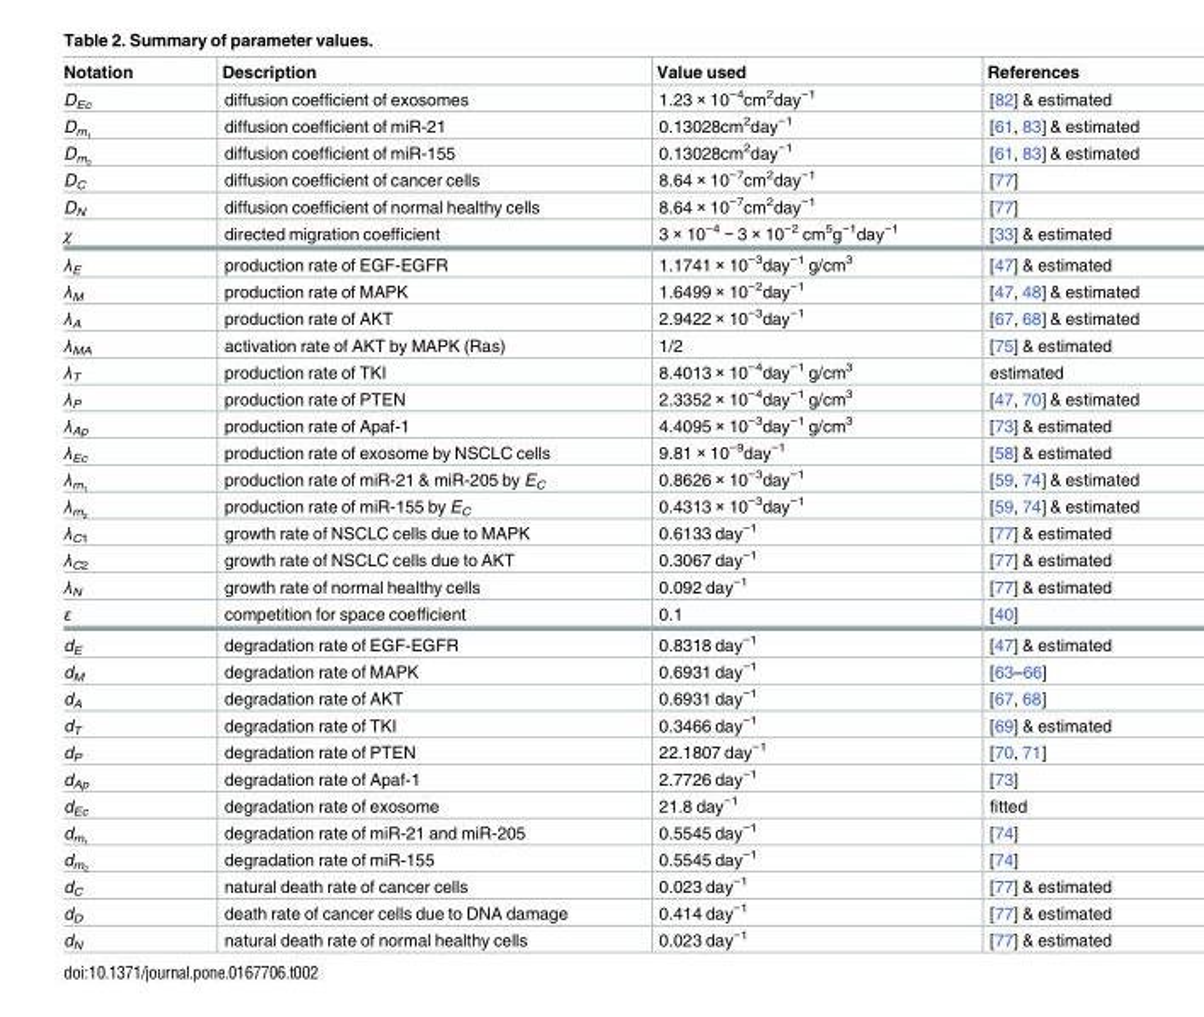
<table><thead><tr><td>Notation</td><td>Description</td><td>Value used</td><td>References</td></tr></thead><tbody><tr><td>D<sub>Ec</sub></td><td>diffusion coefficient of exosomes</td><td>1.23 × 10<sup>−4</sup>cm<sup>2</sup>day<sup>−1</sup></td><td>[82] &amp; estimated</td></tr><tr><td>Dm1</td><td>diffusion coefficient of miR-21</td><td>0.13028cm<sup>2</sup>day<sup>−1</sup></td><td>[61, 83] &amp; estimated</td></tr><tr><td>Dm2</td><td>diffusion coefficient of miR-155</td><td>0.13028cm<sup>2</sup>day<sup>−1</sup></td><td>[61, 83] &amp; estimated</td></tr><tr><td>D<sub>C</sub></td><td>diffusion coefficient of cancer cells</td><td>8.64 × 10<sup>−7</sup>cm<sup>2</sup>day<sup>−1</sup></td><td>[77]</td></tr><tr><td>D<sub>N</sub></td><td>diffusion coefficient of normal healthy cells</td><td>8.64 × 10<sup>−7</sup>cm<sup>2</sup>day<sup>−1</sup></td><td>[77]</td></tr><tr><td>χ</td><td>directed migration coefficient</td><td>3 × 10<sup>−4</sup> − 3 × 10<sup>−2</sup> cm<sup>5</sup>g<sup>−1</sup>day<sup>−1</sup></td><td>[33] &amp; estimated</td></tr><tr><td>λ<sub>E</sub></td><td>production rate of EGF-EGFR</td><td>1.1741 × 10<sup>−3</sup>day<sup>−1</sup> g/cm<sup>3</sup></td><td>[47] &amp; estimated</td></tr><tr><td>λ<sub>M</sub></td><td>production rate of MAPK</td><td>1.6499 × 10<sup>−2</sup>day<sup>−1</sup></td><td>[47, 48] &amp; estimated</td></tr><tr><td>λ<sub>A</sub></td><td>production rate of AKT</td><td>2.9422 × 10<sup>−3</sup>day<sup>−1</sup></td><td>[67, 68] &amp; estimated</td></tr><tr><td>λ<sub>MA</sub></td><td>activation rate of AKT by MAPK (Ras)</td><td>1/2</td><td>[75] &amp; estimated</td></tr><tr><td>λ<sub>T</sub></td><td>production rate of TKI</td><td>8.4013 × 10<sup>−4</sup>day<sup>−1</sup> g/cm<sup>3</sup></td><td>estimated</td></tr><tr><td>λ<sub>P</sub></td><td>production rate of PTEN</td><td>2.3352 × 10<sup>−4</sup>day<sup>−1</sup> g/cm<sup>3</sup></td><td>[47, 70] &amp; estimated</td></tr><tr><td>λ<sub>Ap</sub></td><td>production rate of Apaf-1</td><td>4.4095 × 10<sup>−3</sup>day<sup>−1</sup> g/cm<sup>3</sup></td><td>[73] &amp; estimated</td></tr><tr><td>λ<sub>Ec</sub></td><td>production rate of exosome by NSCLC cells</td><td>9.81 × 10<sup>−9</sup>day<sup>−1</sup></td><td>[58] &amp; estimated</td></tr><tr><td>λm1</td><td>production rate of miR-21 &amp; miR-205 by E<sub>C</sub></td><td>0.8626 × 10<sup>−3</sup>day<sup>−1</sup></td><td>[59, 74] &amp; estimated</td></tr><tr><td>λm2</td><td>production rate of miR-155 by E<sub>C</sub></td><td>0.4313 × 10<sup>−3</sup>day<sup>−1</sup></td><td>[59, 74] &amp; estimated</td></tr><tr><td>λ<sub>C1</sub></td><td>growth rate of NSCLC cells due to MAPK</td><td>0.6133 day<sup>−1</sup></td><td>[77] &amp; estimated</td></tr><tr><td>λ<sub>C2</sub></td><td>growth rate of NSCLC cells due to AKT</td><td>0.3067 day<sup>−1</sup></td><td>[77] &amp; estimated</td></tr><tr><td>λ<sub>N</sub></td><td>growth rate of normal healthy cells</td><td>0.092 day<sup>−1</sup></td><td>[77] &amp; estimated</td></tr><tr><td>ε</td><td>competition for space coefficient</td><td>0.1</td><td>[40]</td></tr><tr><td>d<sub>E</sub></td><td>degradation rate of EGF-EGFR</td><td>0.8318 day<sup>−1</sup></td><td>[47] &amp; estimated</td></tr><tr><td>d<sub>M</sub></td><td>degradation rate of MAPK</td><td>0.6931 day<sup>−1</sup></td><td>[63–66]</td></tr><tr><td>d<sub>A</sub></td><td>degradation rate of AKT</td><td>0.6931 day<sup>−1</sup></td><td>[67, 68]</td></tr><tr><td>d<sub>T</sub></td><td>degradation rate of TKI</td><td>0.3466 day<sup>−1</sup></td><td>[69] &amp; estimated</td></tr><tr><td>d<sub>P</sub></td><td>degradation rate of PTEN</td><td>22.1807 day<sup>−1</sup></td><td>[70, 71]</td></tr><tr><td>d<sub>Ap</sub></td><td>degradation rate of Apaf-1</td><td>2.7726 day<sup>−1</sup></td><td>[73]</td></tr><tr><td>d<sub>Ec</sub></td><td>degradation rate of exosome</td><td>21.8 day<sup>−1</sup></td><td>fitted</td></tr><tr><td>dm1</td><td>degradation rate of miR-21 and miR-205</td><td>0.5545 day<sup>−1</sup></td><td>[74]</td></tr><tr><td>dm2</td><td>degradation rate of miR-155</td><td>0.5545 day<sup>−1</sup></td><td>[74]</td></tr><tr><td>d<sub>C</sub></td><td>natural death rate of cancer cells</td><td>0.023 day<sup>−1</sup></td><td>[77] &amp; estimated</td></tr><tr><td>d<sub>D</sub></td><td>death rate of cancer cells due to DNA damage</td><td>0.414 day<sup>−1</sup></td><td>[77] &amp; estimated</td></tr><tr><td>d<sub>N</sub></td><td>natural death rate of normal healthy cells</td><td>0.023 day<sup>−1</sup></td><td>[77] &amp; estimated</td></tr></tbody></table>